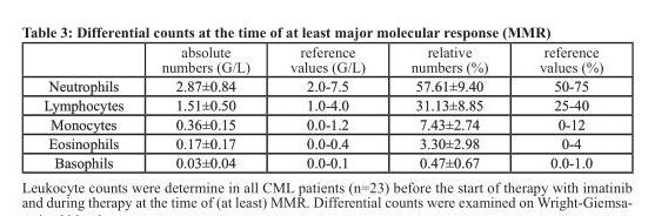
<table><thead><tr><td></td><td>absolute numbers (G/L)</td><td>reference values (G/L)</td><td>relative numbers (%)</td><td>reference values (%)</td></tr></thead><tbody><tr><td>Neutrophils</td><td>2.87±0.84</td><td>2.0-7.5</td><td>57.61±9.40</td><td>50-75</td></tr><tr><td>Lymphocytes</td><td>1.51±0.50</td><td>1.0-4.0</td><td>31.13±8.85</td><td>25-40</td></tr><tr><td>Monocytes</td><td>0.36±0.15</td><td>0.0-1.2</td><td>7.43±2.74</td><td>0-12</td></tr><tr><td>Eosinophils</td><td>0.17±0.17</td><td>0.0-0.4</td><td>3.30±2.98</td><td>0-4</td></tr><tr><td>Basophils</td><td>0.03±0.04</td><td>0.0-0.1</td><td>0.47±0.67</td><td>0.0-1.0</td></tr></tbody></table>